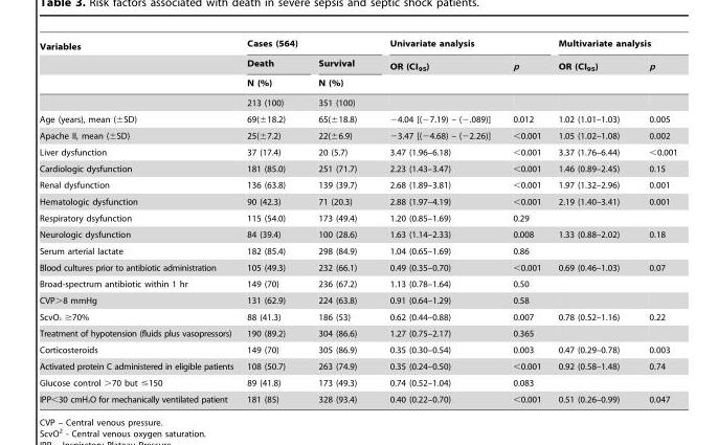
<table><thead><tr><td rowspan="3">Variables</td><td colspan="2">Cases (564)</td><td colspan="2">Univariate analysis</td><td colspan="2">Multivariate analysis</td></tr><tr><td rowspan="2">Death N (%)</td><td rowspan="2">Survival N (%)</td><td rowspan="2">OR (CI<sub>95</sub>)</td><td rowspan="2">p</td><td rowspan="2">OR (CI<sub>95</sub>)</td><td rowspan="2">p</td></tr><tr></tr></thead><tbody><tr><td></td><td>213 (100)</td><td>351 (100)</td><td></td><td></td><td></td><td></td></tr><tr><td>Age (years), mean (±SD)</td><td>69(±18.2)</td><td>65(±18.8)</td><td>−4.04 [(−7.19) – (−.089)]</td><td>0.012</td><td>1.02 (1.01–1.03)</td><td>0.005</td></tr><tr><td>Apache II, mean (±SD)</td><td>25(±7.2)</td><td>22(±6.9)</td><td>−3.47 [(−4.68) – (−2.26)]</td><td>&lt;0.001</td><td>1.05 (1.02–1.08)</td><td>0.002</td></tr><tr><td>Liver dysfunction</td><td>37 (17.4)</td><td>20 (5.7)</td><td>3.47 (1.96–6.18)</td><td>&lt;0.001</td><td>3.37 (1.76–6.44)</td><td>&lt;0.001</td></tr><tr><td>Cardiologic dysfunction</td><td>181 (85.0)</td><td>251 (71.7)</td><td>2.23 (1.43–3.47)</td><td>&lt;0.001</td><td>1.46 (0.89–2.45)</td><td>0.15</td></tr><tr><td>Renal dysfunction</td><td>136 (63.8)</td><td>139 (39.7)</td><td>2.68 (1.89–3.81)</td><td>&lt;0.001</td><td>1.97 (1.32–2.96)</td><td>0.001</td></tr><tr><td>Hematologic dysfunction</td><td>90 (42.3)</td><td>71 (20.3)</td><td>2.88 (1.97–4.19)</td><td>&lt;0.001</td><td>2.19 (1.40–3.41)</td><td>0.001</td></tr><tr><td>Respiratory dsyfunction</td><td>115 (54.0)</td><td>173 (49.4)</td><td>1.20 (0.85–1.69)</td><td>0.29</td><td></td><td></td></tr><tr><td>Neurologic dysfunction</td><td>84 (39.4)</td><td>100 (28.6)</td><td>1.63 (1.14–2.33)</td><td>0.008</td><td>1.33 (0.88–2.02)</td><td>0.18</td></tr><tr><td>Serum arterial lactate</td><td>182 (85.4)</td><td>298 (84.9)</td><td>1.04 (0.65–1.69)</td><td>0.86</td><td></td><td></td></tr><tr><td>Blood cultures prior to antibiotic administration</td><td>105 (49.3)</td><td>232 (66.1)</td><td>0.49 (0.35–0.70)</td><td>&lt;0.001</td><td>0.69 (0.46–1.03)</td><td>0.07</td></tr><tr><td>Broad-spectrum antibiotic within 1 hr</td><td>149 (70)</td><td>236 (67.2)</td><td>1.13 (0.78–1.64)</td><td>0.50</td><td></td><td></td></tr><tr><td>CVP&gt;8 mmHg</td><td>131 (62.9)</td><td>224 (63.8)</td><td>0.91 (0.64–1.29)</td><td>0.58</td><td></td><td></td></tr><tr><td>ScvO<sup><sub>2</sub></sup> ≥70%</td><td>88 (41.3)</td><td>186 (53)</td><td>0.62 (0.44–0.88)</td><td>0.007</td><td>0.78 (0.52–1.16)</td><td>0.22</td></tr><tr><td>Treatment of hypotension (fluids plus vasopressors)</td><td>190 (89.2)</td><td>304 (86.6)</td><td>1.27 (0.75–2.17)</td><td>0.365</td><td></td><td></td></tr><tr><td>Corticosteroids</td><td>149 (70)</td><td>305 (86.9)</td><td>0.35 (0.30–0.54)</td><td>0.003</td><td>0.47 (0.29–0.78)</td><td>0.003</td></tr><tr><td>Activated protein C administered in eligible patients</td><td>108 (50.7)</td><td>263 (74.9)</td><td>0.35 (0.24–0.50)</td><td>&lt;0.001</td><td>0.92 (0.58–1.48)</td><td>0.74</td></tr><tr><td>Glucose control &gt;70 but ≤150</td><td>89 (41.8)</td><td>173 (49.3)</td><td>0.74 (0.52–1.04)</td><td>0.083</td><td></td><td></td></tr><tr><td>IPP&lt;30 cmH<sup><sub>2</sub></sup>O for mechanically ventilated patient</td><td>181 (85)</td><td>328 (93.4)</td><td>0.40 (0.22–0.70)</td><td>&lt;0.001</td><td>0.51 (0.26–0.99)</td><td>0.047</td></tr></tbody></table>